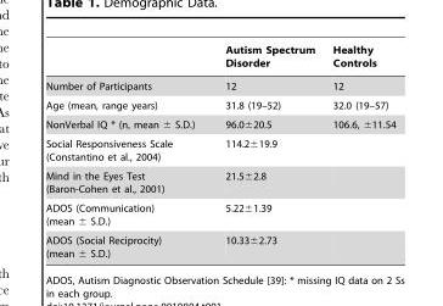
<table><thead><tr><td></td><td>Autism Spectrum Disorder</td><td>Healthy Controls</td></tr></thead><tbody><tr><td>Number of Participants</td><td>12</td><td>12</td></tr><tr><td>Age (mean, range years)</td><td>31.8 (19–52)</td><td>32.0 (19–57)</td></tr><tr><td>NonVerbal IQ * (n, mean ± S.D.)</td><td>96.0±20.5</td><td>106.6, ±11.54</td></tr><tr><td>Social Responsiveness Scale (Constantino et al., 2004)</td><td>114.2±19.9</td><td></td></tr><tr><td>Mind in the Eyes Test (Baron-Cohen et al., 2001)</td><td>21.5±2.8</td><td></td></tr><tr><td>ADOS (Communication) (mean ± S.D.)</td><td>5.22±1.39</td><td></td></tr><tr><td>ADOS (Social Reciprocity) (mean ± S.D.)</td><td>10.33±2.73</td><td></td></tr></tbody></table>